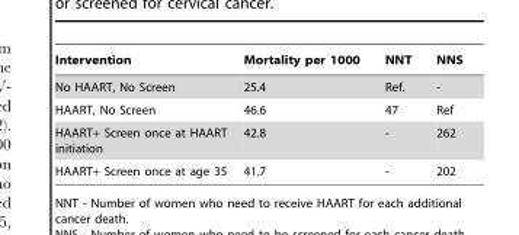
<table><thead><tr><td>Intervention</td><td>Mortality per 1000</td><td>NNT</td><td>NNS</td></tr></thead><tbody><tr><td>No HAART, No Screen</td><td>25.4</td><td>Ref.</td><td>-</td></tr><tr><td>HAART, No Screen</td><td>46.6</td><td>47</td><td>Ref</td></tr><tr><td>HAART+ Screen once at HAART initiation</td><td>42.8</td><td>-</td><td>262</td></tr><tr><td>HAART+ Screen once at age 35</td><td>41.7</td><td>-</td><td>202</td></tr></tbody></table>